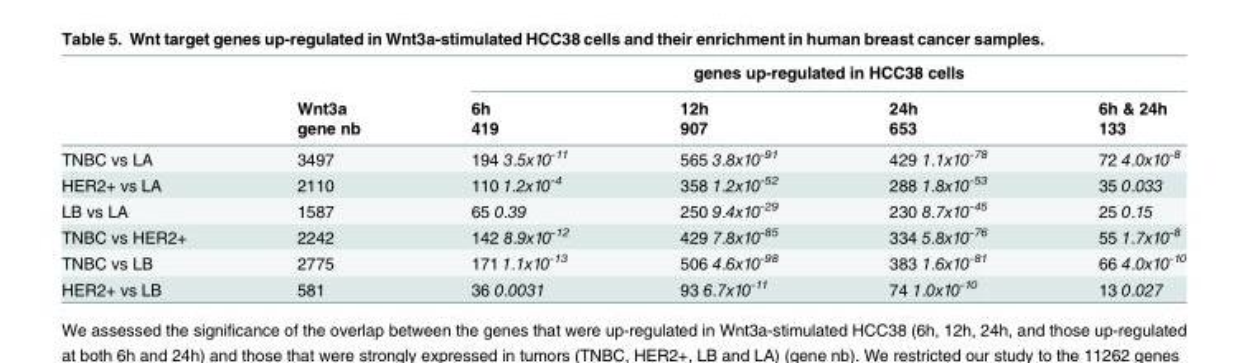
<table><thead><tr><td rowspan="3"></td><td rowspan="3">Wnt3a gene nb</td><td colspan="4">genes up-regulated in HCC38 cells</td></tr><tr><td rowspan="2">6h 419</td><td rowspan="2">12h 907</td><td rowspan="2">24h 653</td><td rowspan="2">6h &amp; 24h 133</td></tr><tr></tr></thead><tbody><tr><td>TNBC vs LA</td><td>3497</td><td>194 3.5x10<sup>-11</sup></td><td>565 3.8x10<sup>-91</sup></td><td>429 1.1x10<sup>-78</sup></td><td>72 4.0x10<sup>-8</sup></td></tr><tr><td>HER2+ vs LA</td><td>2110</td><td>110 1.2x10<sup>-4</sup></td><td>358 1.2x10<sup>-52</sup></td><td>288 1.8x10<sup>-53</sup></td><td>35 0.033</td></tr><tr><td>LB vs LA</td><td>1587</td><td>65 0.39</td><td>250 9.4x10<sup>-29</sup></td><td>230 8.7x10<sup>-45</sup></td><td>25 0.15</td></tr><tr><td>TNBC vs HER2+</td><td>2242</td><td>142 8.9x10<sup>-12</sup></td><td>429 7.8x10<sup>-85</sup></td><td>334 5.8x10<sup>-76</sup></td><td>55 1.7x10<sup>-8</sup></td></tr><tr><td>TNBC vs LB</td><td>2775</td><td>171 1.1x10<sup>-13</sup></td><td>506 4.6x10<sup>-98</sup></td><td>383 1.6x10<sup>-81</sup></td><td>66 4.0x10<sup>-10</sup></td></tr><tr><td>HER2+ vs LB</td><td>581</td><td>36 0.0031</td><td>93 6.7x10<sup>-11</sup></td><td>74 1.0x10<sup>-10</sup></td><td>13 0.027</td></tr></tbody></table>